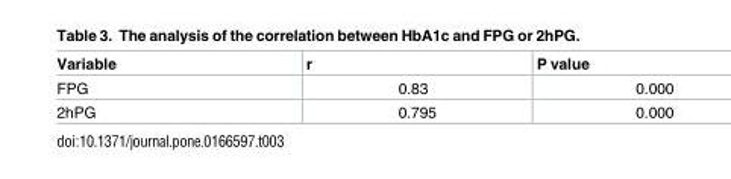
<table><thead><tr><td>Variable</td><td>r</td><td>P value</td></tr></thead><tbody><tr><td>FPG</td><td>0.83</td><td>0.000</td></tr><tr><td>2hPG</td><td>0.795</td><td>0.000</td></tr></tbody></table>